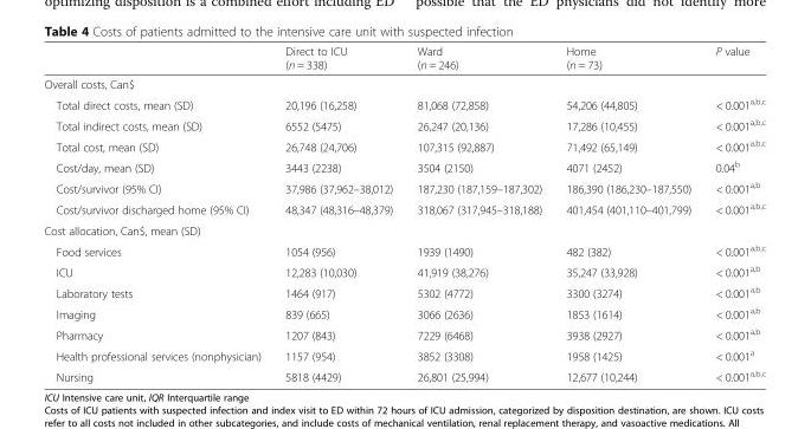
<table><thead><tr><td></td><td>Direct to ICU (n = 338)</td><td>Ward (n = 246)</td><td>Home (n = 73)</td><td>P value</td></tr></thead><tbody><tr><td colspan="5">Overall costs, Can$</td></tr><tr><td>Total direct costs, mean (SD)</td><td>20,196 (16,258)</td><td>81,068 (72,858)</td><td>54,206 (44,805)</td><td>&lt; 0.001<sup>a,b,c</sup></td></tr><tr><td>Total indirect costs, mean (SD)</td><td>6552 (5475)</td><td>26,247 (20,136)</td><td>17,286 (10,455)</td><td>&lt; 0.001<sup>a,b,c</sup></td></tr><tr><td>Total cost, mean (SD)</td><td>26,748 (24,706)</td><td>107,315 (92,887)</td><td>71,492 (65,149)</td><td>&lt; 0.001<sup>a,b,c</sup></td></tr><tr><td>Cost/day, mean (SD)</td><td>3443 (2238)</td><td>3504 (2150)</td><td>4071 (2452)</td><td>0.04<sup>b</sup></td></tr><tr><td>Cost/survivor (95% CI)</td><td>37,986 (37,962–38,012)</td><td>187,230 (187,159–187,302)</td><td>186,390 (186,230–187,550)</td><td>&lt; 0.001<sup>a,b</sup></td></tr><tr><td>Cost/survivor discharged home (95% CI)</td><td>48,347 (48,316–48,379)</td><td>318,067 (317,945–318,188)</td><td>401,454 (401,110–401,799)</td><td>&lt; 0.001<sup>a,b,c</sup></td></tr><tr><td colspan="5">Cost allocation, Can$, mean (SD)</td></tr><tr><td>Food services</td><td>1054 (956)</td><td>1939 (1490)</td><td>482 (382)</td><td>&lt; 0.001<sup>a,b,c</sup></td></tr><tr><td>ICU</td><td>12,283 (10,030)</td><td>41,919 (38,276)</td><td>35,247 (33,928)</td><td>&lt; 0.001<sup>a,b</sup></td></tr><tr><td>Laboratory tests</td><td>1464 (917)</td><td>5302 (4772)</td><td>3300 (3274)</td><td>&lt; 0.001<sup>a,b</sup></td></tr><tr><td>Imaging</td><td>839 (665)</td><td>3066 (2636)</td><td>1853 (1614)</td><td>&lt; 0.001<sup>a,b</sup></td></tr><tr><td>Pharmacy</td><td>1207 (843)</td><td>7229 (6468)</td><td>3938 (2927)</td><td>&lt; 0.001<sup>a,b</sup></td></tr><tr><td>Health professional services (nonphysician)</td><td>1157 (954)</td><td>3852 (3308)</td><td>1958 (1425)</td><td>&lt; 0.001<sup>a</sup></td></tr><tr><td>Nursing</td><td>5818 (4429)</td><td>26,801 (25,994)</td><td>12,677 (10,244)</td><td>&lt; 0.001<sup>a,b,c</sup></td></tr></tbody></table>